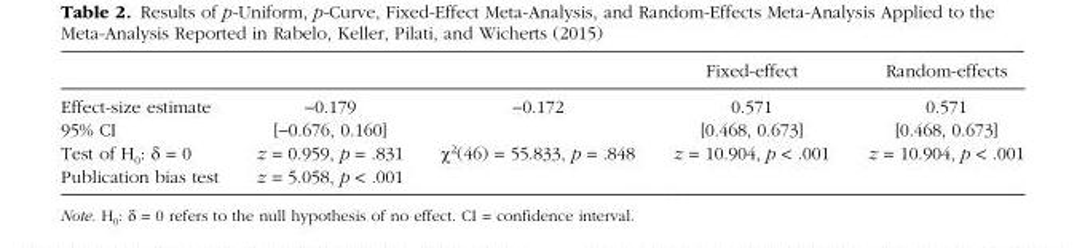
<table><thead><tr><td></td><td></td><td></td><td>Fixed-effect</td><td>Random-effects</td></tr></thead><tbody><tr><td>Effect-size estimate</td><td>−0.179</td><td>−0.172</td><td>0.571</td><td>0.571</td></tr><tr><td>95% CI</td><td>[−0.676, 0.160]</td><td></td><td>[0.468, 0.673]</td><td>[0.468, 0.673]</td></tr><tr><td>Test of H<sub>0</sub>: δ = 0</td><td>z = 0.959, p = .831</td><td>χ<sup>2</sup>(46) = 55.833, p = .848</td><td>z = 10.904, p &lt; .001</td><td>z = 10.904, p &lt; .001</td></tr><tr><td>Publication bias test</td><td>z = 5.058, p &lt; .001</td><td></td><td></td><td></td></tr></tbody></table>